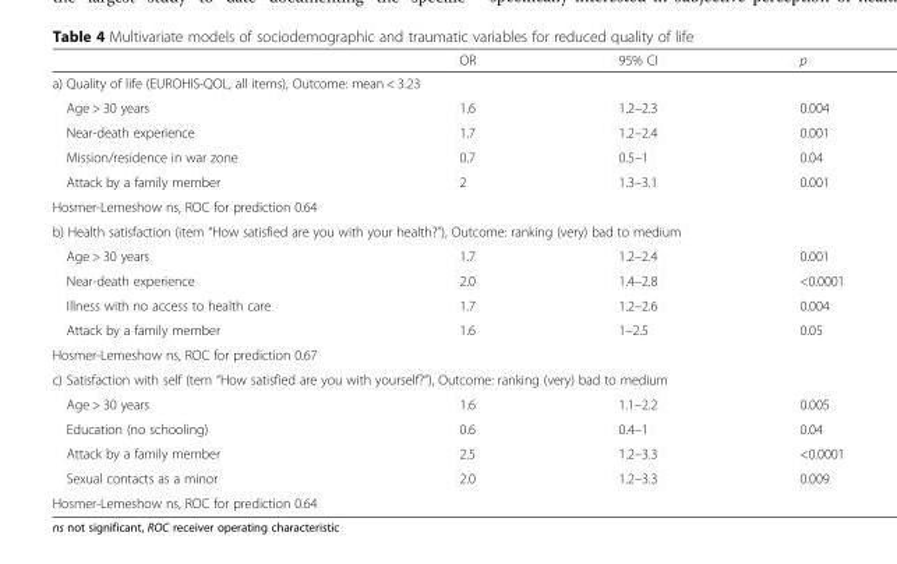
<table><thead><tr><td></td><td>OR</td><td>95% CI</td><td>p</td></tr></thead><tbody><tr><td colspan="4">a) Quality of life (EUROHIS-QOL, all items), Outcome: mean &lt; 3.23</td></tr><tr><td>Age &gt; 30 years</td><td>1.6</td><td>1.2–2.3</td><td>0.004</td></tr><tr><td>Near-death experience</td><td>1.7</td><td>1.2–2.4</td><td>0.001</td></tr><tr><td>Mission/residence in war zone</td><td>0.7</td><td>0.5–1</td><td>0.04</td></tr><tr><td>Attack by a family member</td><td>2</td><td>1.3–3.1</td><td>0.001</td></tr><tr><td colspan="4">Hosmer-Lemeshow ns, ROC for prediction 0.64</td></tr><tr><td colspan="4">b) Health satisfaction (item “How satisfied are you with your health?”), Outcome: ranking (very) bad to medium</td></tr><tr><td>Age &gt; 30 years</td><td>1.7</td><td>1.2–2.4</td><td>0.001</td></tr><tr><td>Near-death experience</td><td>2.0</td><td>1.4–2.8</td><td>&lt;0.0001</td></tr><tr><td>Illness with no access to health care</td><td>1.7</td><td>1.2–2.6</td><td>0.004</td></tr><tr><td>Attack by a family member</td><td>1.6</td><td>1–2.5</td><td>0.05</td></tr><tr><td colspan="4">Hosmer-Lemeshow ns, ROC for prediction 0.67</td></tr><tr><td colspan="4">c) Satisfaction with self (tem “How satisfied are you with yourself?”), Outcome: ranking (very) bad to medium</td></tr><tr><td>Age &gt; 30 years</td><td>1.6</td><td>1.1–2.2</td><td>0.005</td></tr><tr><td>Education (no schooling)</td><td>0.6</td><td>0.4–1</td><td>0.04</td></tr><tr><td>Attack by a family member</td><td>2.5</td><td>1.2–3.3</td><td>&lt;0.0001</td></tr><tr><td>Sexual contacts as a minor</td><td>2.0</td><td>1.2–3.3</td><td>0.009</td></tr><tr><td>Hosmer-Lemeshow ns, ROC for prediction 0.64</td><td></td><td></td><td></td></tr></tbody></table>